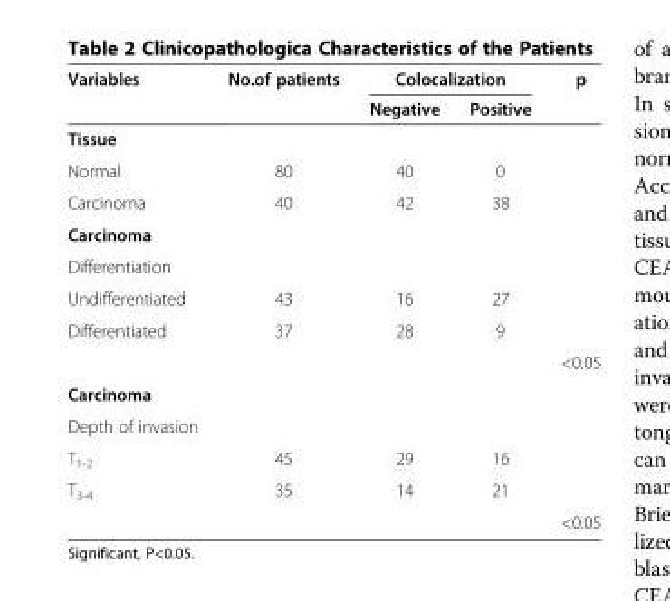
<table><thead><tr><td rowspan="2">Variables</td><td rowspan="2">No.of patients</td><td colspan="2">Colocalization</td><td rowspan="2">p</td></tr><tr><td>Negative</td><td>Positive</td></tr></thead><tbody><tr><td colspan="5">Tissue</td></tr><tr><td>Normal</td><td>80</td><td>40</td><td>0</td><td></td></tr><tr><td>Carcinoma</td><td>40</td><td>42</td><td>38</td><td></td></tr><tr><td colspan="5">Carcinoma</td></tr><tr><td colspan="5">Differentiation</td></tr><tr><td>Undifferentiated</td><td>43</td><td>16</td><td>27</td><td></td></tr><tr><td rowspan="2">Differentiated</td><td>37</td><td>28</td><td>9</td><td></td></tr><tr><td></td><td></td><td></td><td>&lt;0.05</td></tr><tr><td colspan="5">Carcinoma</td></tr><tr><td colspan="5">Depth of invasion</td></tr><tr><td>T<sub>1-2</sub></td><td>45</td><td>29</td><td>16</td><td></td></tr><tr><td rowspan="2">T<sub>3-4</sub></td><td>35</td><td>14</td><td>21</td><td></td></tr><tr><td></td><td></td><td></td><td>&lt;0.05</td></tr></tbody></table>